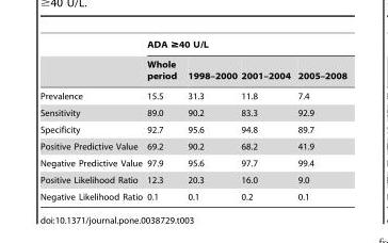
<table><thead><tr><td rowspan="2"></td><td colspan="4">ADA ≥40 U/L</td></tr><tr><td>Whole period</td><td>1998–2000</td><td>2001–2004</td><td>2005–2008</td></tr></thead><tbody><tr><td>Prevalence</td><td>15.5</td><td>31.3</td><td>11.8</td><td>7.4</td></tr><tr><td>Sensitivity</td><td>89.0</td><td>90.2</td><td>83.3</td><td>92.9</td></tr><tr><td>Specificity</td><td>92.7</td><td>95.6</td><td>94.8</td><td>89.7</td></tr><tr><td>Positive Predictive Value</td><td>69.2</td><td>90.2</td><td>68.2</td><td>41.9</td></tr><tr><td>Negative Predictive Value</td><td>97.9</td><td>95.6</td><td>97.7</td><td>99.4</td></tr><tr><td>Positive Likelihood Ratio</td><td>12.3</td><td>20.3</td><td>16.0</td><td>9.0</td></tr><tr><td>Negative Likelihood Ratio</td><td>0.1</td><td>0.1</td><td>0.2</td><td>0.1</td></tr></tbody></table>